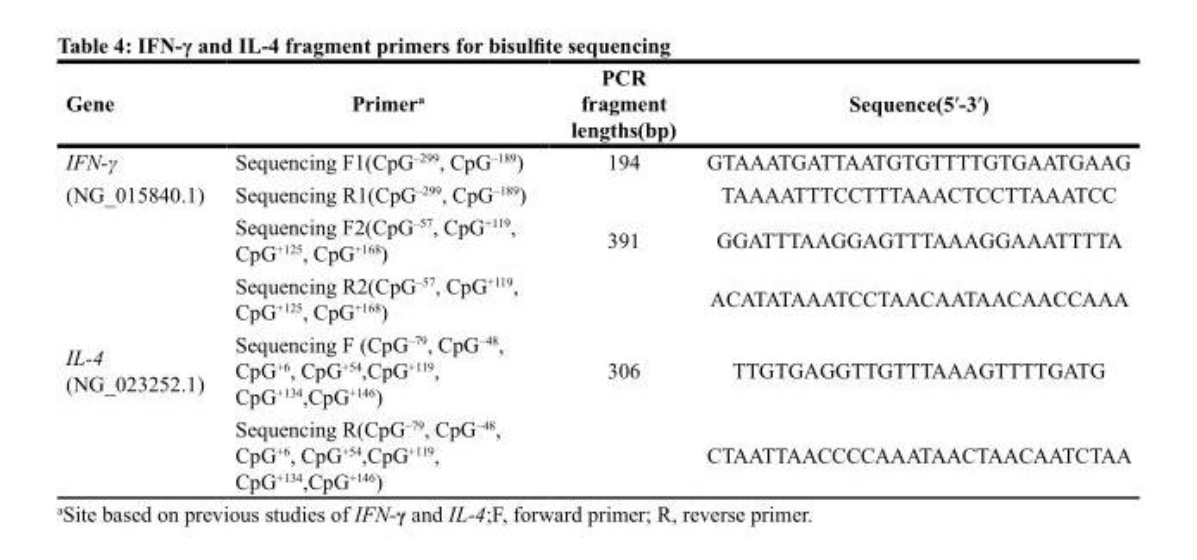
<table><thead><tr><td>Gene</td><td>Primer<sup>a</sup></td><td>PCR fragment lengths(bp)</td><td>Sequence(5′-3′)</td></tr></thead><tbody><tr><td>IFN-γ</td><td>Sequencing F1(CpG<sup>–299</sup>, CpG<sup>–189</sup>)</td><td>194</td><td>GTAAATGATTAATGTGTTTTGTGAATGAAG</td></tr><tr><td rowspan="3">(NG_015840.1)</td><td>Sequencing R1(CpG<sup>–299</sup>, CpG<sup>–189</sup>)</td><td></td><td>TAAAATTTCCTTTAAACTCCTTAAATCC</td></tr><tr><td>Sequencing F2(CpG<sup>–57</sup>, CpG<sup>+119</sup>, CpG<sup>+125</sup>, CpG<sup>+168</sup>)</td><td>391</td><td>GGATTTAAGGAGTTTAAAGGAAATTTTA</td></tr><tr><td>Sequencing R2(CpG<sup>–57</sup>, CpG<sup>+119</sup>, CpG<sup>+125</sup>, CpG<sup>+168</sup>)</td><td></td><td>ACATATAAATCCTAACAATAACAACCAAA</td></tr><tr><td rowspan="2">IL-4 (NG_023252.1)</td><td>Sequencing F (CpG<sup>–79</sup>, CpG<sup>–48</sup>, CpG<sup>+6</sup>, CpG<sup>+54</sup>,CpG<sup>+119</sup>, CpG<sup>+134</sup>,CpG<sup>+146</sup>)</td><td>306</td><td>TTGTGAGGTTGTTTAAAGTTTTGATG</td></tr><tr><td>Sequencing R(CpG<sup>–79</sup>, CpG<sup>–48</sup>, CpG<sup>+6</sup>, CpG<sup>+54</sup>,CpG<sup>+119</sup>, CpG<sup>+134</sup>,CpG<sup>+146</sup>)</td><td></td><td>CTAATTAACCCCAAATAACTAACAATCTAA</td></tr></tbody></table>